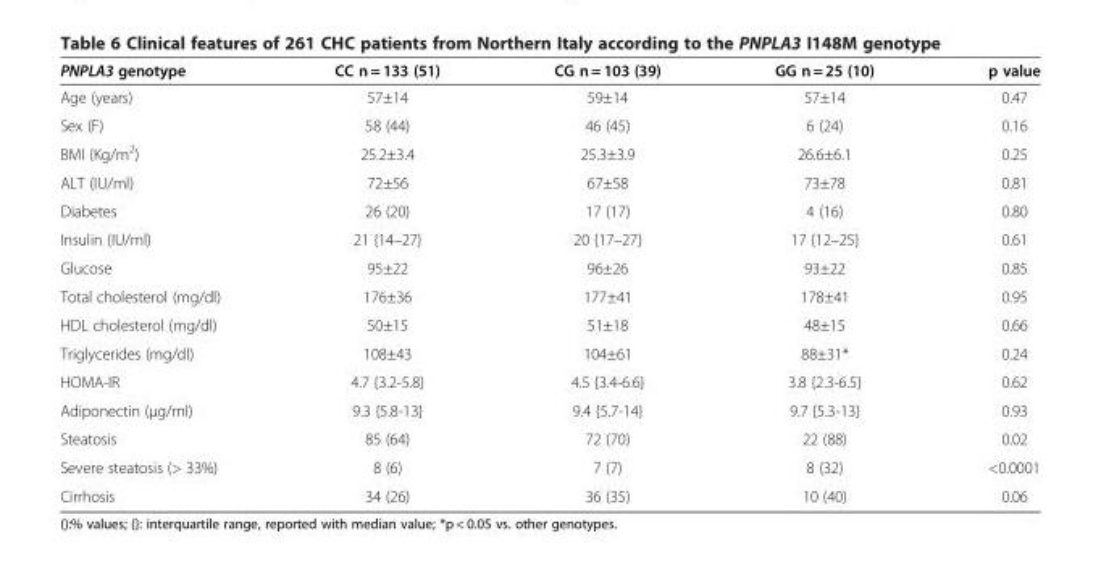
<table><thead><tr><td>PNPLA3 genotype</td><td>CC n = 133 (51)</td><td>CG n = 103 (39)</td><td>GG n = 25 (10)</td><td>p value</td></tr></thead><tbody><tr><td>Age (years)</td><td>57±14</td><td>59±14</td><td>57±14</td><td>0.47</td></tr><tr><td>Sex (F)</td><td>58 (44)</td><td>46 (45)</td><td>6 (24)</td><td>0.16</td></tr><tr><td>BMI (Kg/m<sup>2</sup>)</td><td>25.2±3.4</td><td>25.3±3.9</td><td>26.6±6.1</td><td>0.25</td></tr><tr><td>ALT (IU/ml)</td><td>72±56</td><td>67±58</td><td>73±78</td><td>0.81</td></tr><tr><td>Diabetes</td><td>26 (20)</td><td>17 (17)</td><td>4 (16)</td><td>0.80</td></tr><tr><td>Insulin (IU/ml)</td><td>21 {14–27}</td><td>20 {17–27}</td><td>17 {12–25}</td><td>0.61</td></tr><tr><td>Glucose</td><td>95±22</td><td>96±26</td><td>93±22</td><td>0.85</td></tr><tr><td>Total cholesterol (mg/dl)</td><td>176±36</td><td>177±41</td><td>178±41</td><td>0.95</td></tr><tr><td>HDL cholesterol (mg/dl)</td><td>50±15</td><td>51±18</td><td>48±15</td><td>0.66</td></tr><tr><td>Triglycerides (mg/dl)</td><td>108±43</td><td>104±61</td><td>88±31*</td><td>0.24</td></tr><tr><td>HOMA-IR</td><td>4.7 {3.2-5.8}</td><td>4.5 {3.4-6.6}</td><td>3.8 {2.3-6.5}</td><td>0.62</td></tr><tr><td>Adiponectin (μg/ml)</td><td>9.3 {5.8-13}</td><td>9.4 {5.7-14}</td><td>9.7 {5.3-13}</td><td>0.93</td></tr><tr><td>Steatosis</td><td>85 (64)</td><td>72 (70)</td><td>22 (88)</td><td>0.02</td></tr><tr><td>Severe steatosis (&gt; 33%)</td><td>8 (6)</td><td>7 (7)</td><td>8 (32)</td><td>&lt;0.0001</td></tr><tr><td>Cirrhosis</td><td>34 (26)</td><td>36 (35)</td><td>10 (40)</td><td>0.06</td></tr></tbody></table>